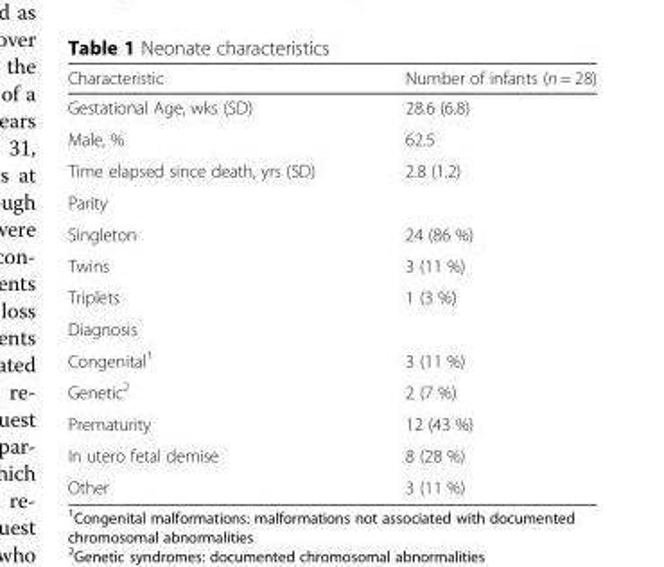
<table><thead><tr><td>Characteristic</td><td>Number of infants (n = 28)</td></tr></thead><tbody><tr><td>Gestational Age, wks (SD)</td><td>28.6 (6.8)</td></tr><tr><td>Male, %</td><td>62.5</td></tr><tr><td>Time elapsed since death, yrs (SD)</td><td>2.8 (1.2)</td></tr><tr><td colspan="2">Parity</td></tr><tr><td>Singleton</td><td>24 (86 %)</td></tr><tr><td>Twins</td><td>3 (11 %)</td></tr><tr><td>Triplets</td><td>1 (3 %)</td></tr><tr><td colspan="2">Diagnosis</td></tr><tr><td>Congenital<sup>1</sup></td><td>3 (11 %)</td></tr><tr><td>Genetic<sup>2</sup></td><td>2 (7 %)</td></tr><tr><td>Prematurity</td><td>12 (43 %)</td></tr><tr><td>In utero fetal demise</td><td>8 (28 %)</td></tr><tr><td>Other</td><td>3 (11 %)</td></tr></tbody></table>